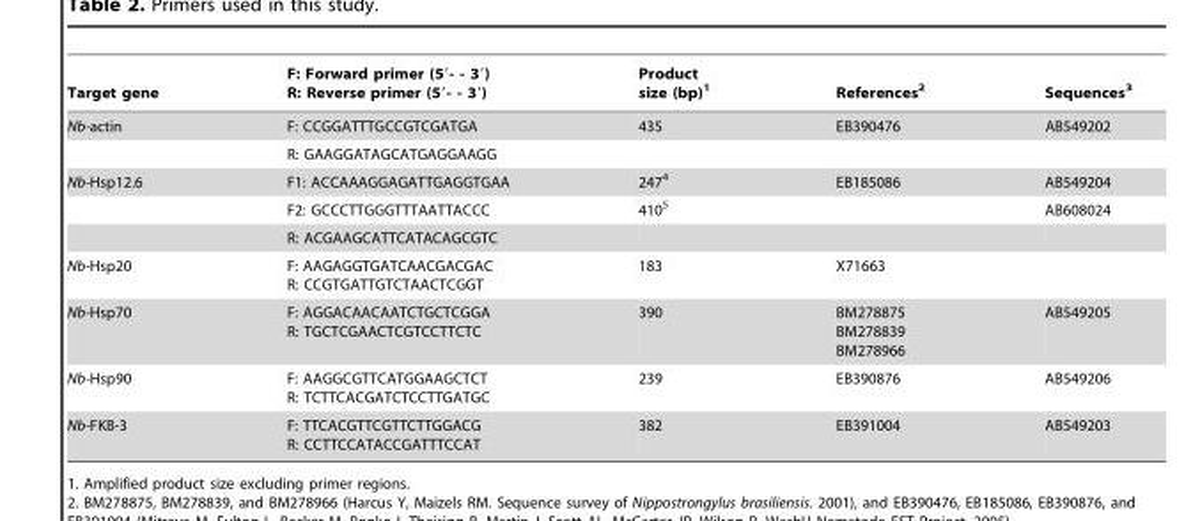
<table><thead><tr><td>Target gene</td><td>F: Forward primer (5′- - 3′) R: Reverse primer (5′- - 3′)</td><td>Product size (bp)<sup>1</sup></td><td>References<sup>2</sup></td><td>Sequences<sup>3</sup></td></tr></thead><tbody><tr><td rowspan="2">Nb-actin</td><td>F: CCGGATTTGCCGTCGATGA</td><td>435</td><td>EB390476</td><td>AB549202</td></tr><tr><td>R: GAAGGATAGCATGAGGAAGG</td><td></td><td></td><td></td></tr><tr><td rowspan="3">Nb-Hsp12.6</td><td>F1: ACCAAAGGAGATTGAGGTGAA</td><td>247<sup>4</sup></td><td>EB185086</td><td>AB549204</td></tr><tr><td>F2: GCCCTTGGGTTTAATTACCC</td><td>410<sup>5</sup></td><td></td><td>AB608024</td></tr><tr><td>R: ACGAAGCATTCATACAGCGTC</td><td></td><td></td><td></td></tr><tr><td>Nb-Hsp20</td><td>F: AAGAGGTGATCAACGACGAC R: CCGTGATTGTCTAACTCGGT</td><td>183</td><td>X71663</td><td></td></tr><tr><td>Nb-Hsp70</td><td>F: AGGACAACAATCTGCTCGGA R: TGCTCGAACTCGTCCTTCTC</td><td>390</td><td>BM278875 BM278839 BM278966</td><td>AB549205</td></tr><tr><td>Nb-Hsp90</td><td>F: AAGGCGTTCATGGAAGCTCT R: TCTTCACGATCTCCTTGATGC</td><td>239</td><td>EB390876</td><td>AB549206</td></tr><tr><td>Nb-FKB-3</td><td>F: TTCACGTTCGTTCTTGGACG R: CCTTCCATACCGATTTCCAT</td><td>382</td><td>EB391004</td><td>AB549203</td></tr></tbody></table>